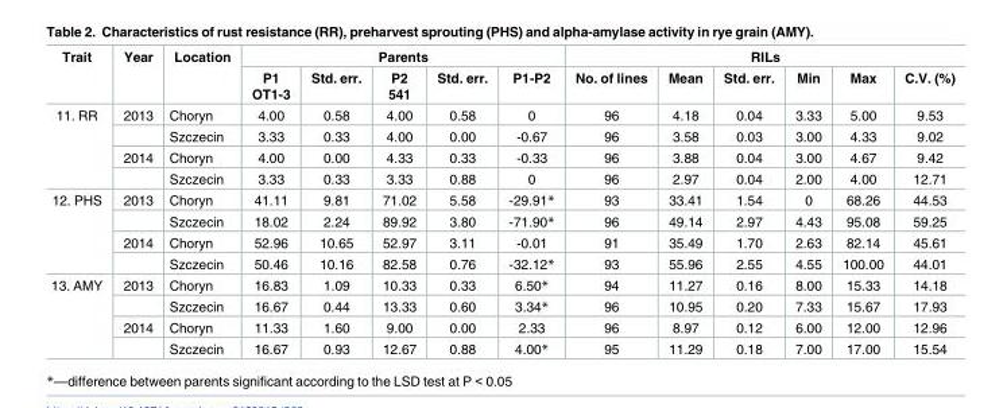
<table><thead><tr><td rowspan="2">Trait</td><td rowspan="2">Year</td><td rowspan="2">Location</td><td colspan="5">Parents</td><td colspan="6">RILs</td></tr><tr><td>P1 OT1-3</td><td>Std. err.</td><td>P2 541</td><td>Std. err.</td><td>P1-P2</td><td>No. of lines</td><td>Mean</td><td>Std. err.</td><td>Min</td><td>Max</td><td>C.V. (%)</td></tr></thead><tbody><tr><td rowspan="4">11. RR</td><td>2013</td><td>Choryn</td><td>4.00</td><td>0.58</td><td>4.00</td><td>0.58</td><td>0</td><td>96</td><td>4.18</td><td>0.04</td><td>3.33</td><td>5.00</td><td>9.53</td></tr><tr><td></td><td>Szczecin</td><td>3.33</td><td>0.33</td><td>4.00</td><td>0.00</td><td>-0.67</td><td>96</td><td>3.58</td><td>0.03</td><td>3.00</td><td>4.33</td><td>9.02</td></tr><tr><td>2014</td><td>Choryn</td><td>4.00</td><td>0.00</td><td>4.33</td><td>0.33</td><td>-0.33</td><td>96</td><td>3.88</td><td>0.04</td><td>3.00</td><td>4.67</td><td>9.42</td></tr><tr><td></td><td>Szczecin</td><td>3.33</td><td>0.33</td><td>3.33</td><td>0.88</td><td>0</td><td>96</td><td>2.97</td><td>0.04</td><td>2.00</td><td>4.00</td><td>12.71</td></tr><tr><td rowspan="4">12. PHS</td><td>2013</td><td>Choryn</td><td>41.11</td><td>9.81</td><td>71.02</td><td>5.58</td><td>-29.91*</td><td>93</td><td>33.41</td><td>1.54</td><td>0</td><td>68.26</td><td>44.53</td></tr><tr><td></td><td>Szczecin</td><td>18.02</td><td>2.24</td><td>89.92</td><td>3.80</td><td>-71.90*</td><td>96</td><td>49.14</td><td>2.97</td><td>4.43</td><td>95.08</td><td>59.25</td></tr><tr><td>2014</td><td>Choryn</td><td>52.96</td><td>10.65</td><td>52.97</td><td>3.11</td><td>-0.01</td><td>91</td><td>35.49</td><td>1.70</td><td>2.63</td><td>82.14</td><td>45.61</td></tr><tr><td></td><td>Szczecin</td><td>50.46</td><td>10.16</td><td>82.58</td><td>0.76</td><td>-32.12*</td><td>93</td><td>55.96</td><td>2.55</td><td>4.55</td><td>100.00</td><td>44.01</td></tr><tr><td rowspan="4">13. AMY</td><td>2013</td><td>Choryn</td><td>16.83</td><td>1.09</td><td>10.33</td><td>0.33</td><td>6.50*</td><td>94</td><td>11.27</td><td>0.16</td><td>8.00</td><td>15.33</td><td>14.18</td></tr><tr><td></td><td>Szczecin</td><td>16.67</td><td>0.44</td><td>13.33</td><td>0.60</td><td>3.34*</td><td>96</td><td>10.95</td><td>0.20</td><td>7.33</td><td>15.67</td><td>17.93</td></tr><tr><td>2014</td><td>Choryn</td><td>11.33</td><td>1.60</td><td>9.00</td><td>0.00</td><td>2.33</td><td>96</td><td>8.97</td><td>0.12</td><td>6.00</td><td>12.00</td><td>12.96</td></tr><tr><td></td><td>Szczecin</td><td>16.67</td><td>0.93</td><td>12.67</td><td>0.88</td><td>4.00*</td><td>95</td><td>11.29</td><td>0.18</td><td>7.00</td><td>17.00</td><td>15.54</td></tr></tbody></table>